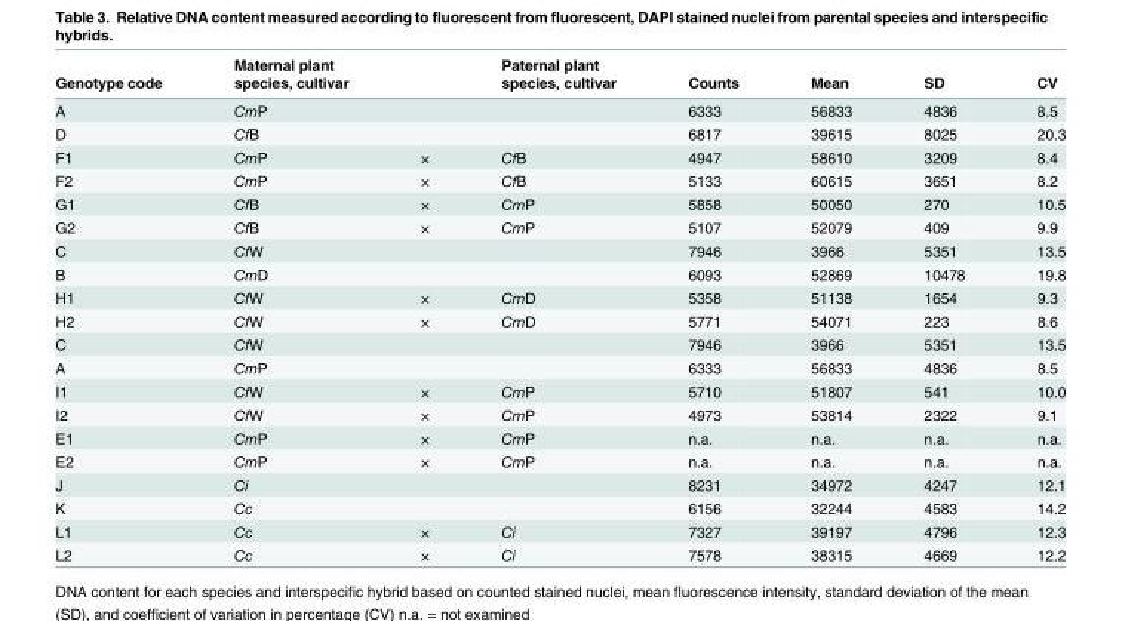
<table><thead><tr><td rowspan="2">Genotype code</td><td rowspan="2">Maternal plant species, cultivar</td><td rowspan="2"></td><td rowspan="2">Paternal plant species, cultivar</td><td rowspan="2">Counts</td><td rowspan="2">Mean</td><td rowspan="2">SD</td><td rowspan="2">CV</td></tr><tr></tr></thead><tbody><tr><td>A</td><td>CmP</td><td></td><td></td><td>6333</td><td>56833</td><td>4836</td><td>8.5</td></tr><tr><td>D</td><td>CfB</td><td></td><td></td><td>6817</td><td>39615</td><td>8025</td><td>20.3</td></tr><tr><td>F1</td><td>CmP</td><td>×</td><td>CfB</td><td>4947</td><td>58610</td><td>3209</td><td>8.4</td></tr><tr><td>F2</td><td>CmP</td><td>×</td><td>CfB</td><td>5133</td><td>60615</td><td>3651</td><td>8.2</td></tr><tr><td>G1</td><td>CfB</td><td>×</td><td>CmP</td><td>5858</td><td>50050</td><td>270</td><td>10.5</td></tr><tr><td>G2</td><td>CfB</td><td>×</td><td>CmP</td><td>5107</td><td>52079</td><td>409</td><td>9.9</td></tr><tr><td>C</td><td>CfW</td><td></td><td></td><td>7946</td><td>3966</td><td>5351</td><td>13.5</td></tr><tr><td>B</td><td>CmD</td><td></td><td></td><td>6093</td><td>52869</td><td>10478</td><td>19.8</td></tr><tr><td>H1</td><td>CfW</td><td>×</td><td>CmD</td><td>5358</td><td>51138</td><td>1654</td><td>9.3</td></tr><tr><td>H2</td><td>CfW</td><td>×</td><td>CmD</td><td>5771</td><td>54071</td><td>223</td><td>8.6</td></tr><tr><td>C</td><td>CfW</td><td></td><td></td><td>7946</td><td>3966</td><td>5351</td><td>13.5</td></tr><tr><td>A</td><td>CmP</td><td></td><td></td><td>6333</td><td>56833</td><td>4836</td><td>8.5</td></tr><tr><td>I1</td><td>CfW</td><td>×</td><td>CmP</td><td>5710</td><td>51807</td><td>541</td><td>10.0</td></tr><tr><td>I2</td><td>CfW</td><td>×</td><td>CmP</td><td>4973</td><td>53814</td><td>2322</td><td>9.1</td></tr><tr><td>E1</td><td>CmP</td><td>×</td><td>CmP</td><td>n.a.</td><td>n.a.</td><td>n.a.</td><td>n.a.</td></tr><tr><td>E2</td><td>CmP</td><td>×</td><td>CmP</td><td>n.a.</td><td>n.a.</td><td>n.a.</td><td>n.a.</td></tr><tr><td>J</td><td>Ci</td><td></td><td></td><td>8231</td><td>34972</td><td>4247</td><td>12.1</td></tr><tr><td>K</td><td>Cc</td><td></td><td></td><td>6156</td><td>32244</td><td>4583</td><td>14.2</td></tr><tr><td>L1</td><td>Cc</td><td>×</td><td>Ci</td><td>7327</td><td>39197</td><td>4796</td><td>12.3</td></tr><tr><td>L2</td><td>Cc</td><td>×</td><td>Ci</td><td>7578</td><td>38315</td><td>4669</td><td>12.2</td></tr></tbody></table>